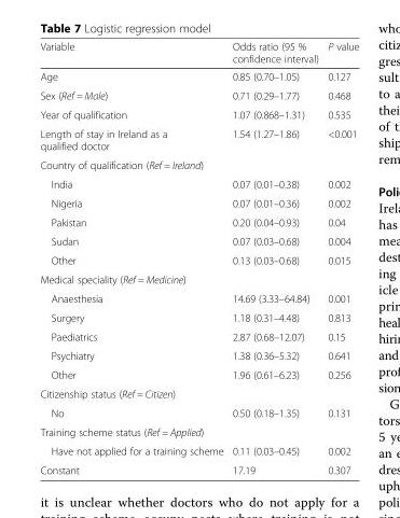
<table><thead><tr><td>Variable</td><td>Odds ratio (95 % confidence interval)</td><td>P value</td></tr></thead><tbody><tr><td>Age</td><td>0.85 (0.70–1.05)</td><td>0.127</td></tr><tr><td>Sex (Ref = Male)</td><td>0.71 (0.29–1.77)</td><td>0.468</td></tr><tr><td>Year of qualification</td><td>1.07 (0.868–1.31)</td><td>0.535</td></tr><tr><td>Length of stay in Ireland as a qualified doctor</td><td>1.54 (1.27–1.86)</td><td>&lt;0.001</td></tr><tr><td colspan="3">Country of qualification (Ref = Ireland)</td></tr><tr><td>India</td><td>0.07 (0.01–0.38)</td><td>0.002</td></tr><tr><td>Nigeria</td><td>0.07 (0.01–0.36)</td><td>0.002</td></tr><tr><td>Pakistan</td><td>0.20 (0.04–0.93)</td><td>0.04</td></tr><tr><td>Sudan</td><td>0.07 (0.03–0.68)</td><td>0.004</td></tr><tr><td>Other</td><td>0.13 (0.03–0.68)</td><td>0.015</td></tr><tr><td colspan="3">Medical speciality (Ref = Medicine)</td></tr><tr><td>Anaesthesia</td><td>14.69 (3.33–64.84)</td><td>0.001</td></tr><tr><td>Surgery</td><td>1.18 (0.31–4.48)</td><td>0.813</td></tr><tr><td>Paediatrics</td><td>2.87 (0.68–12.07)</td><td>0.15</td></tr><tr><td>Psychiatry</td><td>1.38 (0.36–5.32)</td><td>0.641</td></tr><tr><td>Other</td><td>1.96 (0.61–6.23)</td><td>0.256</td></tr><tr><td colspan="3">Citizenship status (Ref = Citizen)</td></tr><tr><td>No</td><td>0.50 (0.18–1.35)</td><td>0.131</td></tr><tr><td colspan="3">Training scheme status (Ref = Applied)</td></tr><tr><td>Have not applied for a training scheme</td><td>0.11 (0.03–0.45)</td><td>0.002</td></tr><tr><td>Constant</td><td>17.19</td><td>0.307</td></tr></tbody></table>